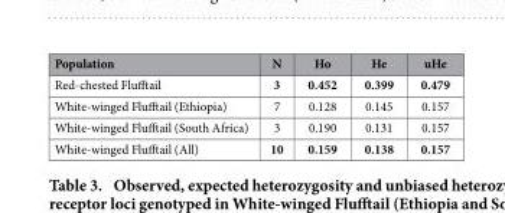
<table><thead><tr><td>Population</td><td>N</td><td>Ho</td><td>He</td><td>uHe</td></tr></thead><tbody><tr><td>Red-chested Flufftail</td><td>3</td><td>0.452</td><td>0.399</td><td>0.479</td></tr><tr><td>White-winged Flufftail (Ethiopia)</td><td>7</td><td>0.128</td><td>0.145</td><td>0.157</td></tr><tr><td>White-winged Flufftail (South Africa)</td><td>3</td><td>0.190</td><td>0.131</td><td>0.157</td></tr><tr><td>White-winged Flufftail (All)</td><td>10</td><td>0.159</td><td>0.138</td><td>0.157</td></tr></tbody></table>